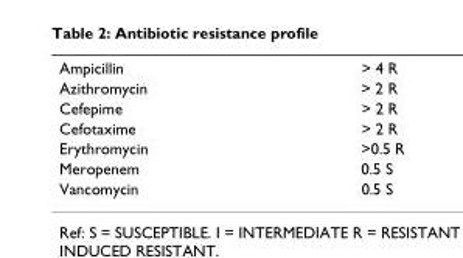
<table><tbody><tr><td>Ampicillin</td><td>&gt; 4 R</td></tr><tr><td>Azithromycin</td><td>&gt; 2 R</td></tr><tr><td>Cefepime</td><td>&gt; 2 R</td></tr><tr><td>Cefotaxime</td><td>&gt; 2 R</td></tr><tr><td>Erythromycin</td><td>&gt;0.5 R</td></tr><tr><td>Meropenem</td><td>0.5 S</td></tr><tr><td>Vancomycin</td><td>0.5 S</td></tr></tbody></table>